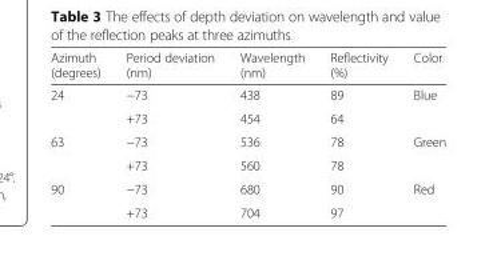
<table><thead><tr><td>Azimuth (degrees)</td><td>Period deviation (nm)</td><td>Wavelength (nm)</td><td>Reflectivity (%)</td><td>Color</td></tr></thead><tbody><tr><td rowspan="2">24</td><td>−73</td><td>438</td><td>89</td><td rowspan="2">Blue</td></tr><tr><td>+73</td><td>454</td><td>64</td></tr><tr><td rowspan="2">63</td><td>−73</td><td>536</td><td>78</td><td rowspan="2">Green</td></tr><tr><td>+73</td><td>560</td><td>78</td></tr><tr><td rowspan="2">90</td><td>−73</td><td>680</td><td>90</td><td rowspan="2">Red</td></tr><tr><td>+73</td><td>704</td><td>97</td></tr></tbody></table>